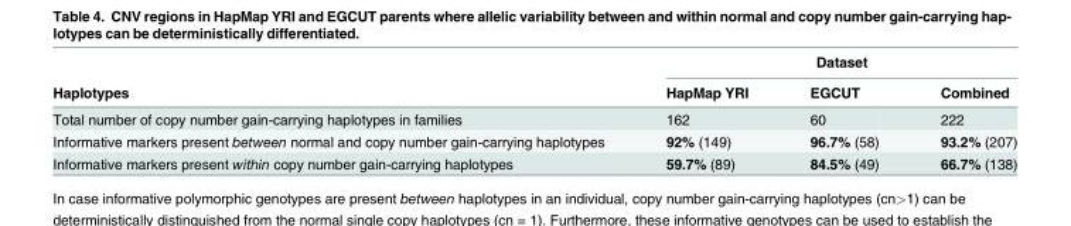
<table><thead><tr><td rowspan="2">Haplotypes</td><td colspan="3">Dataset</td></tr><tr><td>HapMap YRI</td><td>EGCUT</td><td>Combined</td></tr></thead><tbody><tr><td>Total number of copy number gain-carrying haplotypes in families</td><td>162</td><td>60</td><td>222</td></tr><tr><td>Informative markers present between normal and copy number gain-carrying haplotypes</td><td>92% (149)</td><td>96.7% (58)</td><td>93.2% (207)</td></tr><tr><td>Informative markers present within copy number gain-carrying haplotypes</td><td>59.7% (89)</td><td>84.5% (49)</td><td>66.7% (138)</td></tr></tbody></table>